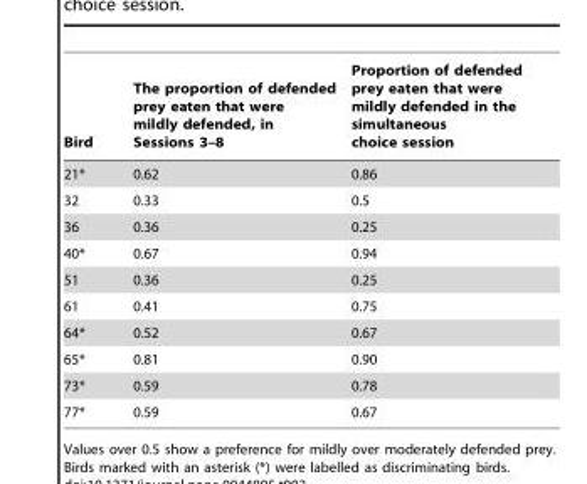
<table><thead><tr><td>Bird</td><td>The proportion of defended prey eaten that were mildly defended, in Sessions 3–8</td><td>Proportion of defended prey eaten that were mildly defended in the simultaneous choice session</td></tr></thead><tbody><tr><td>21*</td><td>0.62</td><td>0.86</td></tr><tr><td>32</td><td>0.33</td><td>0.5</td></tr><tr><td>36</td><td>0.36</td><td>0.25</td></tr><tr><td>40*</td><td>0.67</td><td>0.94</td></tr><tr><td>51</td><td>0.36</td><td>0.25</td></tr><tr><td>61</td><td>0.41</td><td>0.75</td></tr><tr><td>64*</td><td>0.52</td><td>0.67</td></tr><tr><td>65*</td><td>0.81</td><td>0.90</td></tr><tr><td>73*</td><td>0.59</td><td>0.78</td></tr><tr><td>77*</td><td>0.59</td><td>0.67</td></tr></tbody></table>